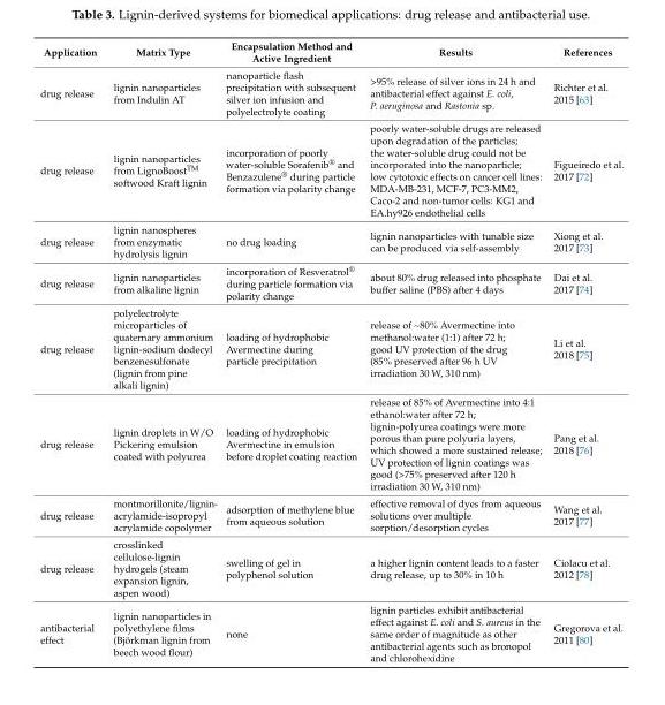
<table><thead><tr><td>Application</td><td>Matrix Type</td><td>Encapsulation Method and Active Ingredient</td><td>Results</td><td>References</td></tr></thead><tbody><tr><td>drug release</td><td>lignin nanoparticles from Indulin AT</td><td>nanoparticle flash precipitation with subsequent silver ion infusion and polyelectrolyte coating</td><td>&gt;95% release of silver ions in 24 h and antibacterial effect against E. coli, P. aeruginosa and Rastonia sp.</td><td>Richter et al. 2015 [63]</td></tr><tr><td>drug release</td><td>lignin nanoparticles from LignoBoost<sup>TM</sup> softwood Kraft lignin</td><td>incorporation of poorly water-soluble Sorafenib<sup>®</sup> and Benzazulene<sup>®</sup> during particle formation via polarity change</td><td>poorly water-soluble drugs are released upon degradation of the particles; the water-soluble drug could not be incorporated into the nanoparticle; low cytotoxic effects on cancer cell lines: MDA-MB-231, MCF-7, PC3-MM2, Caco-2 and non-tumor cells: KG1 and EA.hy926 endothelial cells</td><td>Figueiredo et al. 2017 [72]</td></tr><tr><td>drug release</td><td>lignin nanospheres from enzymatic hydrolysis lignin</td><td>no drug loading</td><td>lignin nanoparticles with tunable size can be produced via self-assembly</td><td>Xiong et al. 2017 [73]</td></tr><tr><td>drug release</td><td>lignin nanoparticles from alkaline lignin</td><td>incorporation of Resveratrol<sup>®</sup> during particle formation via polarity change</td><td>about 80% drug released into phosphate buffer saline (PBS) after 4 days</td><td>Dai et al. 2017 [74]</td></tr><tr><td>drug release</td><td>polyelectrolyte microparticles of quaternary ammonium lignin-sodium dodecyl benzenesulfonate (lignin from pine alkali lignin)</td><td>loading of hydrophobic Avermectine during particle precipitation</td><td>release of ~80% Avermectine into methanol:water (1:1) after 72 h; good UV protection of the drug (85% preserved after 96 h UV irradiation 30 W, 310 nm)</td><td>Li et al. 2018 [75]</td></tr><tr><td>drug release</td><td>lignin droplets in W/O Pickering emulsion coated with polyurea</td><td>loading of hydrophobic Avermectine in emulsion before droplet coating reaction</td><td>release of 85% of Avermectine into 4:1 ethanol:water after 72 h; lignin-polyurea coatings were more porous than pure polyuria layers, which showed a more sustained release; UV protection of lignin coatings was good (&gt;75% preserved after 120 h irradiation 30 W, 310 nm)</td><td>Pang et al. 2018 [76]</td></tr><tr><td>drug release</td><td>montmorillonite/lignin- acrylamide-isopropyl acrylamide copolymer</td><td>adsorption of methylene blue from aqueous solution</td><td>effective removal of dyes from aqueous solutions over multiple sorption/desorption cycles</td><td>Wang et al. 2017 [77]</td></tr><tr><td>drug release</td><td>crosslinked cellulose-lignin hydrogels (steam expansion lignin, aspen wood)</td><td>swelling of gel in polyphenol solution</td><td>a higher lignin content leads to a faster drug release, up to 30% in 10 h</td><td>Ciolacu et al. 2012 [78]</td></tr><tr><td>antibacterial effect</td><td>lignin nanoparticles in polyethylene films (Björkman lignin from beech wood flour)</td><td>none</td><td>lignin particles exhibit antibacterial effect against E. coli and S. aureus in the same order of magnitude as other antibacterial agents such as bronopol and chlorohexidine</td><td>Gregorova et al. 2011 [80]</td></tr></tbody></table>